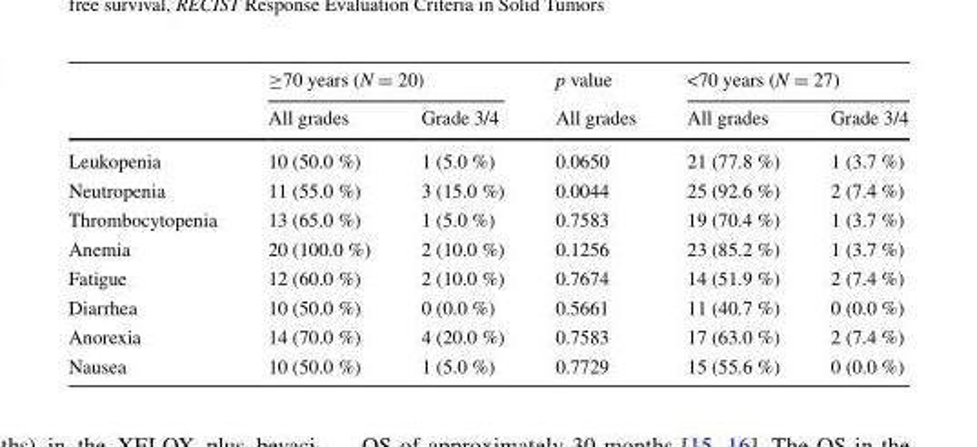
<table><thead><tr><td rowspan="2"></td><td colspan="2">≥70 years (N = 20)</td><td rowspan="2">p value All grades</td><td colspan="2">&lt;70 years (N = 27)</td></tr><tr><td>All grades</td><td>Grade 3/4</td><td>All grades</td><td>Grade 3/4</td></tr></thead><tbody><tr><td>Leukopenia</td><td>10 (50.0 %)</td><td>1 (5.0 %)</td><td>0.0650</td><td>21 (77.8 %)</td><td>1 (3.7 %)</td></tr><tr><td>Neutropenia</td><td>11 (55.0 %)</td><td>3 (15.0 %)</td><td>0.0044</td><td>25 (92.6 %)</td><td>2 (7.4 %)</td></tr><tr><td>Thrombocytopenia</td><td>13 (65.0 %)</td><td>1 (5.0 %)</td><td>0.7583</td><td>19 (70.4 %)</td><td>1 (3.7 %)</td></tr><tr><td>Anemia</td><td>20 (100.0 %)</td><td>2 (10.0 %)</td><td>0.1256</td><td>23 (85.2 %)</td><td>1 (3.7 %)</td></tr><tr><td>Fatigue</td><td>12 (60.0 %)</td><td>2 (10.0 %)</td><td>0.7674</td><td>14 (51.9 %)</td><td>2 (7.4 %)</td></tr><tr><td>Diarrhea</td><td>10 (50.0 %)</td><td>0 (0.0 %)</td><td>0.5661</td><td>11 (40.7 %)</td><td>0 (0.0 %)</td></tr><tr><td>Anorexia</td><td>14 (70.0 %)</td><td>4 (20.0 %)</td><td>0.7583</td><td>17 (63.0 %)</td><td>2 (7.4 %)</td></tr><tr><td>Nausea</td><td>10 (50.0 %)</td><td>1 (5.0 %)</td><td>0.7729</td><td>15 (55.6 %)</td><td>0 (0.0 %)</td></tr></tbody></table>